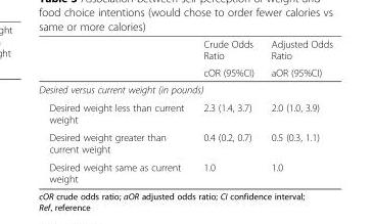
<table><thead><tr><td rowspan="2"></td><td rowspan="2">Crude Odds Ratio cOR (95%CI)</td><td rowspan="2">Adjusted Odds Ratio aOR (95%CI)</td></tr><tr></tr></thead><tbody><tr><td colspan="3">Desired versus current weight (in pounds)</td></tr><tr><td>Desired weight less than current weight</td><td>2.3 (1.4, 3.7)</td><td>2.0 (1.0, 3.9)</td></tr><tr><td>Desired weight greater than current weight</td><td>0.4 (0.2, 0.7)</td><td>0.5 (0.3, 1.1)</td></tr><tr><td>Desired weight same as current weight</td><td>1.0</td><td>1.0</td></tr></tbody></table>